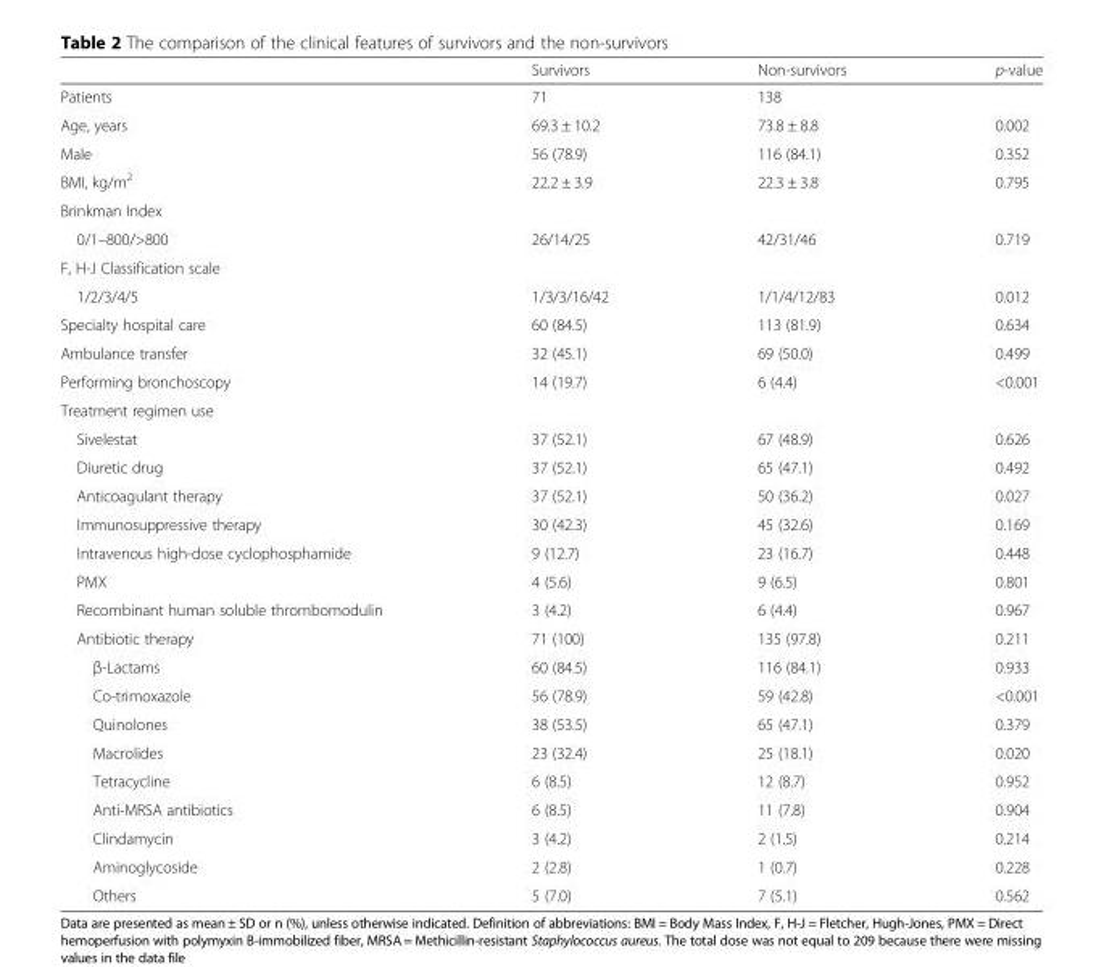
<table><thead><tr><td></td><td>Survivors</td><td>Non-survivors</td><td>p-value</td></tr></thead><tbody><tr><td>Patients</td><td>71</td><td>138</td><td></td></tr><tr><td>Age, years</td><td>69.3 ± 10.2</td><td>73.8 ± 8.8</td><td>0.002</td></tr><tr><td>Male</td><td>56 (78.9)</td><td>116 (84.1)</td><td>0.352</td></tr><tr><td>BMI, kg/m<sup>2</sup></td><td>22.2 ± 3.9</td><td>22.3 ± 3.8</td><td>0.795</td></tr><tr><td colspan="4">Brinkman Index</td></tr><tr><td>0/1–800/&gt;800</td><td>26/14/25</td><td>42/31/46</td><td>0.719</td></tr><tr><td colspan="4">F, H-J Classification scale</td></tr><tr><td>1/2/3/4/5</td><td>1/3/3/16/42</td><td>1/1/4/12/83</td><td>0.012</td></tr><tr><td>Specialty hospital care</td><td>60 (84.5)</td><td>113 (81.9)</td><td>0.634</td></tr><tr><td>Ambulance transfer</td><td>32 (45.1)</td><td>69 (50.0)</td><td>0.499</td></tr><tr><td>Performing bronchoscopy</td><td>14 (19.7)</td><td>6 (4.4)</td><td>&lt;0.001</td></tr><tr><td colspan="4">Treatment regimen use</td></tr><tr><td>Sivelestat</td><td>37 (52.1)</td><td>67 (48.9)</td><td>0.626</td></tr><tr><td>Diuretic drug</td><td>37 (52.1)</td><td>65 (47.1)</td><td>0.492</td></tr><tr><td>Anticoagulant therapy</td><td>37 (52.1)</td><td>50 (36.2)</td><td>0.027</td></tr><tr><td>Immunosuppressive therapy</td><td>30 (42.3)</td><td>45 (32.6)</td><td>0.169</td></tr><tr><td>Intravenous high-dose cyclophosphamide</td><td>9 (12.7)</td><td>23 (16.7)</td><td>0.448</td></tr><tr><td>PMX</td><td>4 (5.6)</td><td>9 (6.5)</td><td>0.801</td></tr><tr><td>Recombinant human soluble thrombomodulin</td><td>3 (4.2)</td><td>6 (4.4)</td><td>0.967</td></tr><tr><td>Antibiotic therapy</td><td>71 (100)</td><td>135 (97.8)</td><td>0.211</td></tr><tr><td>β-Lactams</td><td>60 (84.5)</td><td>116 (84.1)</td><td>0.933</td></tr><tr><td>Co-trimoxazole</td><td>56 (78.9)</td><td>59 (42.8)</td><td>&lt;0.001</td></tr><tr><td>Quinolones</td><td>38 (53.5)</td><td>65 (47.1)</td><td>0.379</td></tr><tr><td>Macrolides</td><td>23 (32.4)</td><td>25 (18.1)</td><td>0.020</td></tr><tr><td>Tetracycline</td><td>6 (8.5)</td><td>12 (8.7)</td><td>0.952</td></tr><tr><td>Anti-MRSA antibiotics</td><td>6 (8.5)</td><td>11 (7.8)</td><td>0.904</td></tr><tr><td>Clindamycin</td><td>3 (4.2)</td><td>2 (1.5)</td><td>0.214</td></tr><tr><td>Aminoglycoside</td><td>2 (2.8)</td><td>1 (0.7)</td><td>0.228</td></tr><tr><td>Others</td><td>5 (7.0)</td><td>7 (5.1)</td><td>0.562</td></tr></tbody></table>